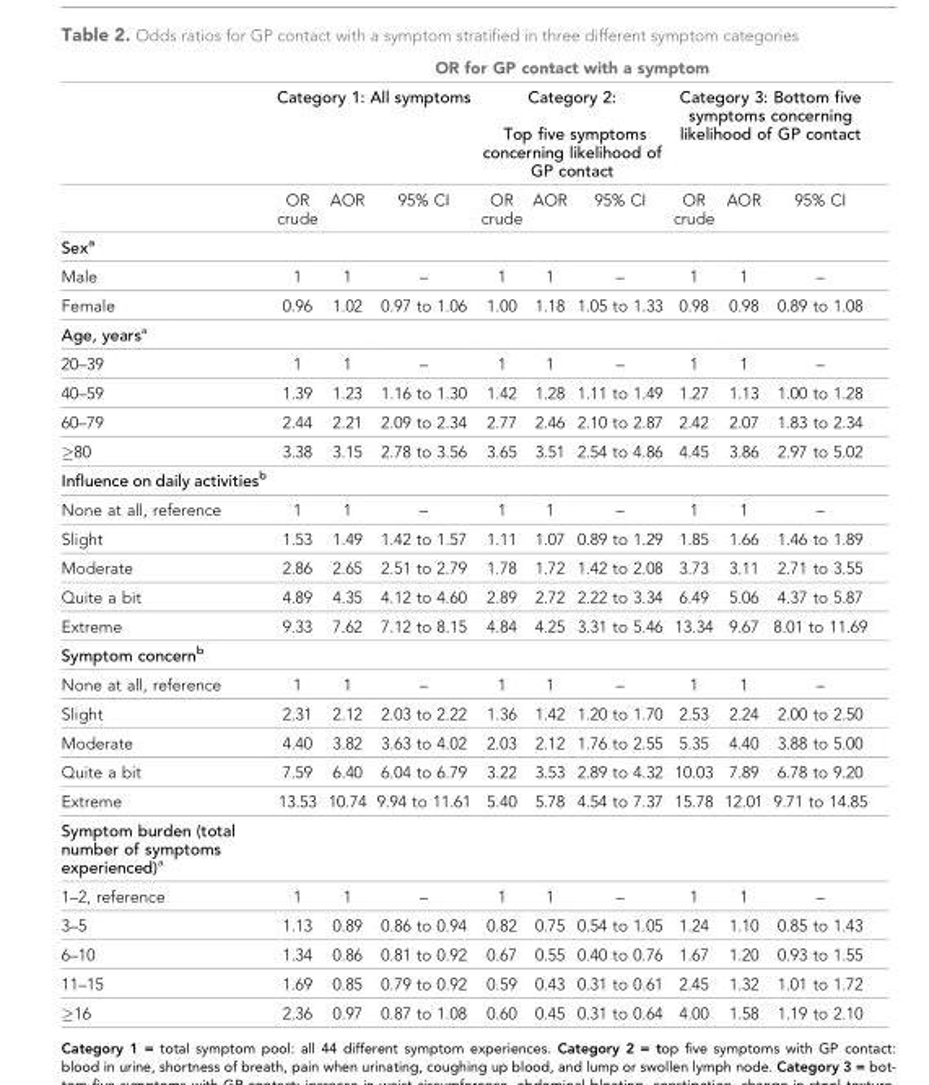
<table><thead><tr><td rowspan="3"></td><td colspan="9">OR for GP contact with a symptom</td></tr><tr><td colspan="3">Category 1: All symptoms</td><td colspan="3">Category 2: Top five symptoms concerning likelihood of GP contact</td><td colspan="3">Category 3: Bottom five symptoms concerning likelihood of GP contact</td></tr><tr><td>OR crude</td><td>AOR</td><td>95% CI</td><td>OR crude</td><td>AOR</td><td>95% CI</td><td>OR crude</td><td>AOR</td><td>95% CI</td></tr></thead><tbody><tr><td colspan="10">Sex<sup>a</sup></td></tr><tr><td>Male</td><td>1</td><td>1</td><td>–</td><td>1</td><td>1</td><td>–</td><td>1</td><td>1</td><td>–</td></tr><tr><td>Female</td><td>0.96</td><td>1.02</td><td>0.97 to 1.06</td><td>1.00</td><td>1.18</td><td>1.05 to 1.33</td><td>0.98</td><td>0.98</td><td>0.89 to 1.08</td></tr><tr><td colspan="10">Age, years<sup>a</sup></td></tr><tr><td>20–39</td><td>1</td><td>1</td><td>–</td><td>1</td><td>1</td><td>–</td><td>1</td><td>1</td><td>–</td></tr><tr><td>40–59</td><td>1.39</td><td>1.23</td><td>1.16 to 1.30</td><td>1.42</td><td>1.28</td><td>1.11 to 1.49</td><td>1.27</td><td>1.13</td><td>1.00 to 1.28</td></tr><tr><td>60–79</td><td>2.44</td><td>2.21</td><td>2.09 to 2.34</td><td>2.77</td><td>2.46</td><td>2.10 to 2.87</td><td>2.42</td><td>2.07</td><td>1.83 to 2.34</td></tr><tr><td>≥80</td><td>3.38</td><td>3.15</td><td>2.78 to 3.56</td><td>3.65</td><td>3.51</td><td>2.54 to 4.86</td><td>4.45</td><td>3.86</td><td>2.97 to 5.02</td></tr><tr><td colspan="10">Influence on daily activities<sup>b</sup></td></tr><tr><td>None at all, reference</td><td>1</td><td>1</td><td>–</td><td>1</td><td>1</td><td>–</td><td>1</td><td>1</td><td>–</td></tr><tr><td>Slight</td><td>1.53</td><td>1.49</td><td>1.42 to 1.57</td><td>1.11</td><td>1.07</td><td>0.89 to 1.29</td><td>1.85</td><td>1.66</td><td>1.46 to 1.89</td></tr><tr><td>Moderate</td><td>2.86</td><td>2.65</td><td>2.51 to 2.79</td><td>1.78</td><td>1.72</td><td>1.42 to 2.08</td><td>3.73</td><td>3.11</td><td>2.71 to 3.55</td></tr><tr><td>Quite a bit</td><td>4.89</td><td>4.35</td><td>4.12 to 4.60</td><td>2.89</td><td>2.72</td><td>2.22 to 3.34</td><td>6.49</td><td>5.06</td><td>4.37 to 5.87</td></tr><tr><td>Extreme</td><td>9.33</td><td>7.62</td><td>7.12 to 8.15</td><td>4.84</td><td>4.25</td><td>3.31 to 5.46</td><td>13.34</td><td>9.67</td><td>8.01 to 11.69</td></tr><tr><td colspan="10">Symptom concern<sup>b</sup></td></tr><tr><td>None at all, reference</td><td>1</td><td>1</td><td>–</td><td>1</td><td>1</td><td>–</td><td>1</td><td>1</td><td>–</td></tr><tr><td>Slight</td><td>2.31</td><td>2.12</td><td>2.03 to 2.22</td><td>1.36</td><td>1.42</td><td>1.20 to 1.70</td><td>2.53</td><td>2.24</td><td>2.00 to 2.50</td></tr><tr><td>Moderate</td><td>4.40</td><td>3.82</td><td>3.63 to 4.02</td><td>2.03</td><td>2.12</td><td>1.76 to 2.55</td><td>5.35</td><td>4.40</td><td>3.88 to 5.00</td></tr><tr><td>Quite a bit</td><td>7.59</td><td>6.40</td><td>6.04 to 6.79</td><td>3.22</td><td>3.53</td><td>2.89 to 4.32</td><td>10.03</td><td>7.89</td><td>6.78 to 9.20</td></tr><tr><td>Extreme</td><td>13.53</td><td>10.74</td><td>9.94 to 11.61</td><td>5.40</td><td>5.78</td><td>4.54 to 7.37</td><td>15.78</td><td>12.01</td><td>9.71 to 14.85</td></tr><tr><td colspan="10">Symptom burden (total number of symptoms experienced)<sup>a</sup></td></tr><tr><td>1–2, reference</td><td>1</td><td>1</td><td>–</td><td>1</td><td>1</td><td>–</td><td>1</td><td>1</td><td>–</td></tr><tr><td>3–5</td><td>1.13</td><td>0.89</td><td>0.86 to 0.94</td><td>0.82</td><td>0.75</td><td>0.54 to 1.05</td><td>1.24</td><td>1.10</td><td>0.85 to 1.43</td></tr><tr><td>6–10</td><td>1.34</td><td>0.86</td><td>0.81 to 0.92</td><td>0.67</td><td>0.55</td><td>0.40 to 0.76</td><td>1.67</td><td>1.20</td><td>0.93 to 1.55</td></tr><tr><td>11–15</td><td>1.69</td><td>0.85</td><td>0.79 to 0.92</td><td>0.59</td><td>0.43</td><td>0.31 to 0.61</td><td>2.45</td><td>1.32</td><td>1.01 to 1.72</td></tr><tr><td>≥16</td><td>2.36</td><td>0.97</td><td>0.87 to 1.08</td><td>0.60</td><td>0.45</td><td>0.31 to 0.64</td><td>4.00</td><td>1.58</td><td>1.19 to 2.10</td></tr></tbody></table>